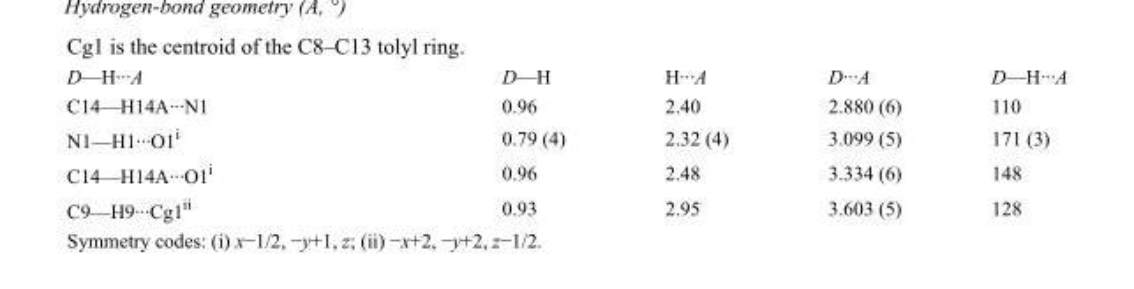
<table><tbody><tr><td>D—H···A</td><td>D—H</td><td>H···A</td><td>D···A</td><td>D—H···A</td></tr><tr><td>C14—H14A···N1</td><td>0.96</td><td>2.40</td><td>2.880 (6)</td><td>110</td></tr><tr><td>N1—H1···O1<sup>i</sup></td><td>0.79 (4)</td><td>2.32 (4)</td><td>3.099 (5)</td><td>171 (3)</td></tr><tr><td>C14—H14A···O1<sup>i</sup></td><td>0.96</td><td>2.48</td><td>3.334 (6)</td><td>148</td></tr><tr><td>C9—H9···Cg1<sup>ii</sup></td><td>0.93</td><td>2.95</td><td>3.603 (5)</td><td>128</td></tr></tbody></table>